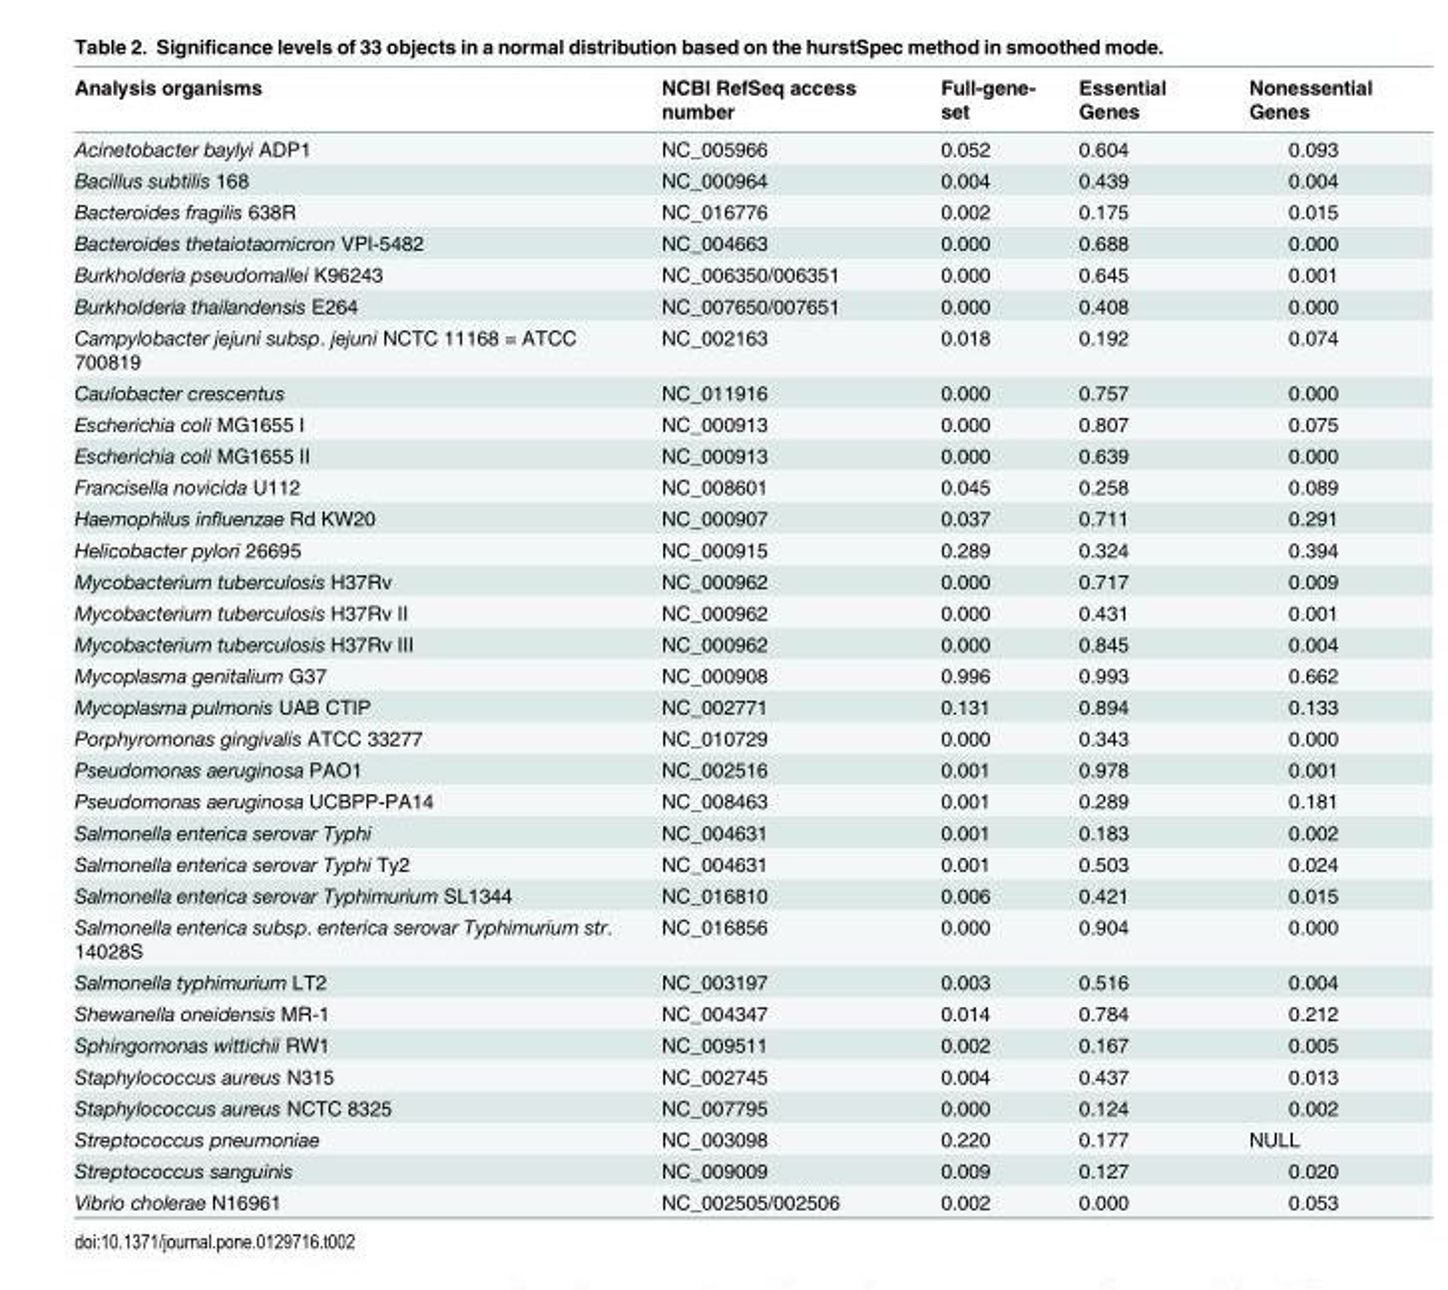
<table><thead><tr><td>Analysis organisms</td><td>NCBI RefSeq access number</td><td>Full-gene- set</td><td>Essential Genes</td><td>Nonessential Genes</td></tr></thead><tbody><tr><td>Acinetobacter baylyi ADP1</td><td>NC_005966</td><td>0.052</td><td>0.604</td><td>0.093</td></tr><tr><td>Bacillus subtilis 168</td><td>NC_000964</td><td>0.004</td><td>0.439</td><td>0.004</td></tr><tr><td>Bacteroides fragilis 638R</td><td>NC_016776</td><td>0.002</td><td>0.175</td><td>0.015</td></tr><tr><td>Bacteroides thetaiotaomicron VPI-5482</td><td>NC_004663</td><td>0.000</td><td>0.688</td><td>0.000</td></tr><tr><td>Burkholderia pseudomallei K96243</td><td>NC_006350/006351</td><td>0.000</td><td>0.645</td><td>0.001</td></tr><tr><td>Burkholderia thailandensis E264</td><td>NC_007650/007651</td><td>0.000</td><td>0.408</td><td>0.000</td></tr><tr><td>Campylobacter jejuni subsp. jejuni NCTC 11168 = ATCC 700819</td><td>NC_002163</td><td>0.018</td><td>0.192</td><td>0.074</td></tr><tr><td>Caulobacter crescentus</td><td>NC_011916</td><td>0.000</td><td>0.757</td><td>0.000</td></tr><tr><td>Escherichia coli MG1655 I</td><td>NC_000913</td><td>0.000</td><td>0.807</td><td>0.075</td></tr><tr><td>Escherichia coli MG1655 II</td><td>NC_000913</td><td>0.000</td><td>0.639</td><td>0.000</td></tr><tr><td>Francisella novicida U112</td><td>NC_008601</td><td>0.045</td><td>0.258</td><td>0.089</td></tr><tr><td>Haemophilus influenzae Rd KW20</td><td>NC_000907</td><td>0.037</td><td>0.711</td><td>0.291</td></tr><tr><td>Helicobacter pylori 26695</td><td>NC_000915</td><td>0.289</td><td>0.324</td><td>0.394</td></tr><tr><td>Mycobacterium tuberculosis H37Rv</td><td>NC_000962</td><td>0.000</td><td>0.717</td><td>0.009</td></tr><tr><td>Mycobacterium tuberculosis H37Rv II</td><td>NC_000962</td><td>0.000</td><td>0.431</td><td>0.001</td></tr><tr><td>Mycobacterium tuberculosis H37Rv III</td><td>NC_000962</td><td>0.000</td><td>0.845</td><td>0.004</td></tr><tr><td>Mycoplasma genitalium G37</td><td>NC_000908</td><td>0.996</td><td>0.993</td><td>0.662</td></tr><tr><td>Mycoplasma pulmonis UAB CTIP</td><td>NC_002771</td><td>0.131</td><td>0.894</td><td>0.133</td></tr><tr><td>Porphyromonas gingivalis ATCC 33277</td><td>NC_010729</td><td>0.000</td><td>0.343</td><td>0.000</td></tr><tr><td>Pseudomonas aeruginosa PAO1</td><td>NC_002516</td><td>0.001</td><td>0.978</td><td>0.001</td></tr><tr><td>Pseudomonas aeruginosa UCBPP-PA14</td><td>NC_008463</td><td>0.001</td><td>0.289</td><td>0.181</td></tr><tr><td>Salmonella enterica serovar Typhi</td><td>NC_004631</td><td>0.001</td><td>0.183</td><td>0.002</td></tr><tr><td>Salmonella enterica serovar Typhi Ty2</td><td>NC_004631</td><td>0.001</td><td>0.503</td><td>0.024</td></tr><tr><td>Salmonella enterica serovar Typhimurium SL1344</td><td>NC_016810</td><td>0.006</td><td>0.421</td><td>0.015</td></tr><tr><td>Salmonella enterica subsp. enterica serovar Typhimurium str. 14028S</td><td>NC_016856</td><td>0.000</td><td>0.904</td><td>0.000</td></tr><tr><td>Salmonella typhimurium LT2</td><td>NC_003197</td><td>0.003</td><td>0.516</td><td>0.004</td></tr><tr><td>Shewanella oneidensis MR-1</td><td>NC_004347</td><td>0.014</td><td>0.784</td><td>0.212</td></tr><tr><td>Sphingomonas wittichii RW1</td><td>NC_009511</td><td>0.002</td><td>0.167</td><td>0.005</td></tr><tr><td>Staphylococcus aureus N315</td><td>NC_002745</td><td>0.004</td><td>0.437</td><td>0.013</td></tr><tr><td>Staphylococcus aureus NCTC 8325</td><td>NC_007795</td><td>0.000</td><td>0.124</td><td>0.002</td></tr><tr><td>Streptococcus pneumoniae</td><td>NC_003098</td><td>0.220</td><td>0.177</td><td>NULL</td></tr><tr><td>Streptococcus sanguinis</td><td>NC_009009</td><td>0.009</td><td>0.127</td><td>0.020</td></tr><tr><td>Vibrio cholerae N16961</td><td>NC_002505/002506</td><td>0.002</td><td>0.000</td><td>0.053</td></tr></tbody></table>